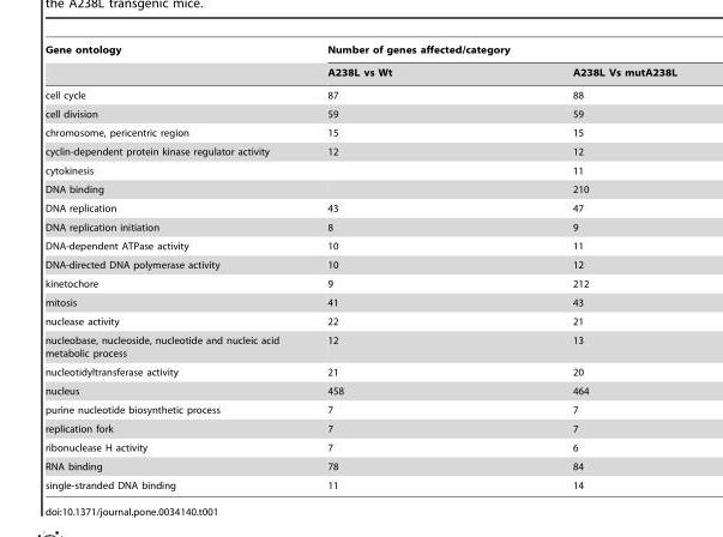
<table><thead><tr><td rowspan="2">Gene ontology</td><td colspan="2">Number of genes affected/category</td></tr><tr><td>A238L vs Wt</td><td>A238L Vs mutA238L</td></tr></thead><tbody><tr><td>cell cycle</td><td>87</td><td>88</td></tr><tr><td>cell division</td><td>59</td><td>59</td></tr><tr><td>chromosome, pericentric region</td><td>15</td><td>15</td></tr><tr><td>cyclin-dependent protein kinase regulator activity</td><td>12</td><td>12</td></tr><tr><td>cytokinesis</td><td></td><td>11</td></tr><tr><td>DNA binding</td><td></td><td>210</td></tr><tr><td>DNA replication</td><td>43</td><td>47</td></tr><tr><td>DNA replication initiation</td><td>8</td><td>9</td></tr><tr><td>DNA-dependent ATPase activity</td><td>10</td><td>11</td></tr><tr><td>DNA-directed DNA polymerase activity</td><td>10</td><td>12</td></tr><tr><td>kinetochore</td><td>9</td><td>212</td></tr><tr><td>mitosis</td><td>41</td><td>43</td></tr><tr><td>nuclease activity</td><td>22</td><td>21</td></tr><tr><td>nucleobase, nucleoside, nucleotide and nucleic acid metabolic process</td><td>12</td><td>13</td></tr><tr><td>nucleotidyltransferase activity</td><td>21</td><td>20</td></tr><tr><td>nucleus</td><td>458</td><td>464</td></tr><tr><td>purine nucleotide biosynthetic process</td><td>7</td><td>7</td></tr><tr><td>replication fork</td><td>7</td><td>7</td></tr><tr><td>ribonuclease H activity</td><td>7</td><td>6</td></tr><tr><td>RNA binding</td><td>78</td><td>84</td></tr><tr><td>single-stranded DNA binding</td><td>11</td><td>14</td></tr></tbody></table>